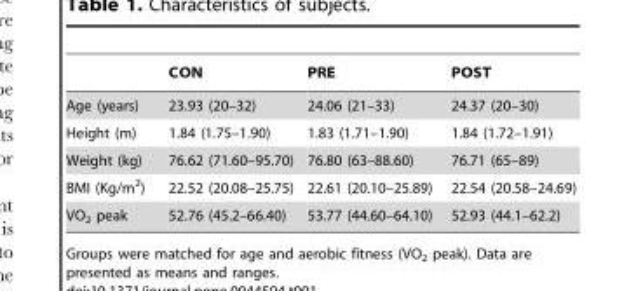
<table><thead><tr><td></td><td>CON</td><td>PRE</td><td>POST</td></tr></thead><tbody><tr><td>Age (years)</td><td>23.93 (20–32)</td><td>24.06 (21–33)</td><td>24.37 (20–30)</td></tr><tr><td>Height (m)</td><td>1.84 (1.75–1.90)</td><td>1.83 (1.71–1.90)</td><td>1.84 (1.72–1.91)</td></tr><tr><td>Weight (kg)</td><td>76.62 (71.60–95.70)</td><td>76.80 (63–88.60)</td><td>76.71 (65–89)</td></tr><tr><td>BMI (Kg/m<sup>2</sup>)</td><td>22.52 (20.08–25.75)</td><td>22.61 (20.10–25.89)</td><td>22.54 (20.58–24.69)</td></tr><tr><td>VO<sub>2</sub> peak</td><td>52.76 (45.2–66.40)</td><td>53.77 (44.60–64.10)</td><td>52.93 (44.1–62.2)</td></tr></tbody></table>